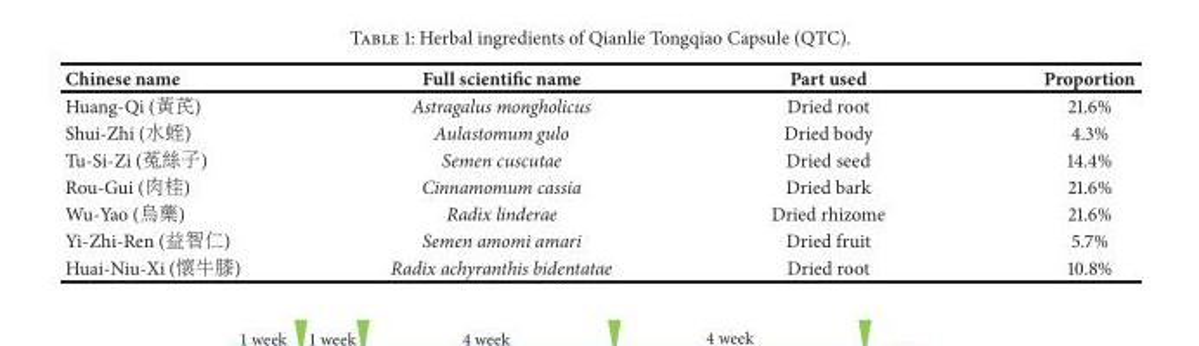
<table><thead><tr><td>Chinese name</td><td>Full scientific name</td><td>Part used</td><td>Proportion</td></tr></thead><tbody><tr><td>Huang-Qi (黃芪)</td><td>Astragalus mongholicus</td><td>Dried root</td><td>21.6%</td></tr><tr><td>Shui-Zhi (水蛭)</td><td>Aulastomum gulo</td><td>Dried body</td><td>4.3%</td></tr><tr><td>Tu-Si-Zi (菟絲子)</td><td>Semen cuscutae</td><td>Dried seed</td><td>14.4%</td></tr><tr><td>Rou-Gui (肉桂)</td><td>Cinnamomum cassia</td><td>Dried bark</td><td>21.6%</td></tr><tr><td>Wu-Yao (烏藥)</td><td>Radix linderae</td><td>Dried rhizome</td><td>21.6%</td></tr><tr><td>Yi-Zhi-Ren (益智仁)</td><td>Semen amomi amari</td><td>Dried fruit</td><td>5.7%</td></tr><tr><td>Huai-Niu-Xi (懷牛膝)</td><td>Radix achyranthis bidentatae</td><td>Dried root</td><td>10.8%</td></tr></tbody></table>